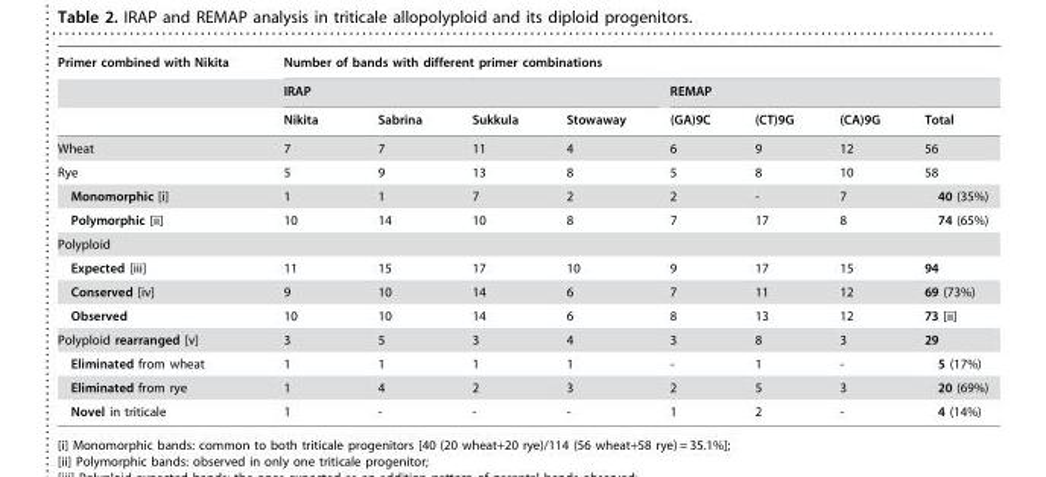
<table><thead><tr><td rowspan="3">Primer combined with Nikita</td><td colspan="8">Number of bands with different primer combinations</td></tr><tr><td colspan="4">IRAP</td><td colspan="4">REMAP</td></tr><tr><td>Nikita</td><td>Sabrina</td><td>Sukkula</td><td>Stowaway</td><td>(GA)9C</td><td>(CT)9G</td><td>(CA)9G</td><td>Total</td></tr></thead><tbody><tr><td>Wheat</td><td>7</td><td>7</td><td>11</td><td>4</td><td>6</td><td>9</td><td>12</td><td>56</td></tr><tr><td>Rye</td><td>5</td><td>9</td><td>13</td><td>8</td><td>5</td><td>8</td><td>10</td><td>58</td></tr><tr><td>Monomorphic [i]</td><td>1</td><td>1</td><td>7</td><td>2</td><td>2</td><td>-</td><td>7</td><td>40 (35%)</td></tr><tr><td>Polymorphic [ii]</td><td>10</td><td>14</td><td>10</td><td>8</td><td>7</td><td>17</td><td>8</td><td>74 (65%)</td></tr><tr><td colspan="9">Polyploid</td></tr><tr><td>Expected [iii]</td><td>11</td><td>15</td><td>17</td><td>10</td><td>9</td><td>17</td><td>15</td><td>94</td></tr><tr><td>Conserved [iv]</td><td>9</td><td>10</td><td>14</td><td>6</td><td>7</td><td>11</td><td>12</td><td>69 (73%)</td></tr><tr><td>Observed</td><td>10</td><td>10</td><td>14</td><td>6</td><td>8</td><td>13</td><td>12</td><td>73 [ii]</td></tr><tr><td>Polyploid rearranged [v]</td><td>3</td><td>5</td><td>3</td><td>4</td><td>3</td><td>8</td><td>3</td><td>29</td></tr><tr><td>Eliminated from wheat</td><td>1</td><td>1</td><td>1</td><td>1</td><td>-</td><td>1</td><td>-</td><td>5 (17%)</td></tr><tr><td>Eliminated from rye</td><td>1</td><td>4</td><td>2</td><td>3</td><td>2</td><td>5</td><td>3</td><td>20 (69%)</td></tr><tr><td>Novel in triticale</td><td>1</td><td>-</td><td>-</td><td>-</td><td>1</td><td>2</td><td>-</td><td>4 (14%)</td></tr></tbody></table>